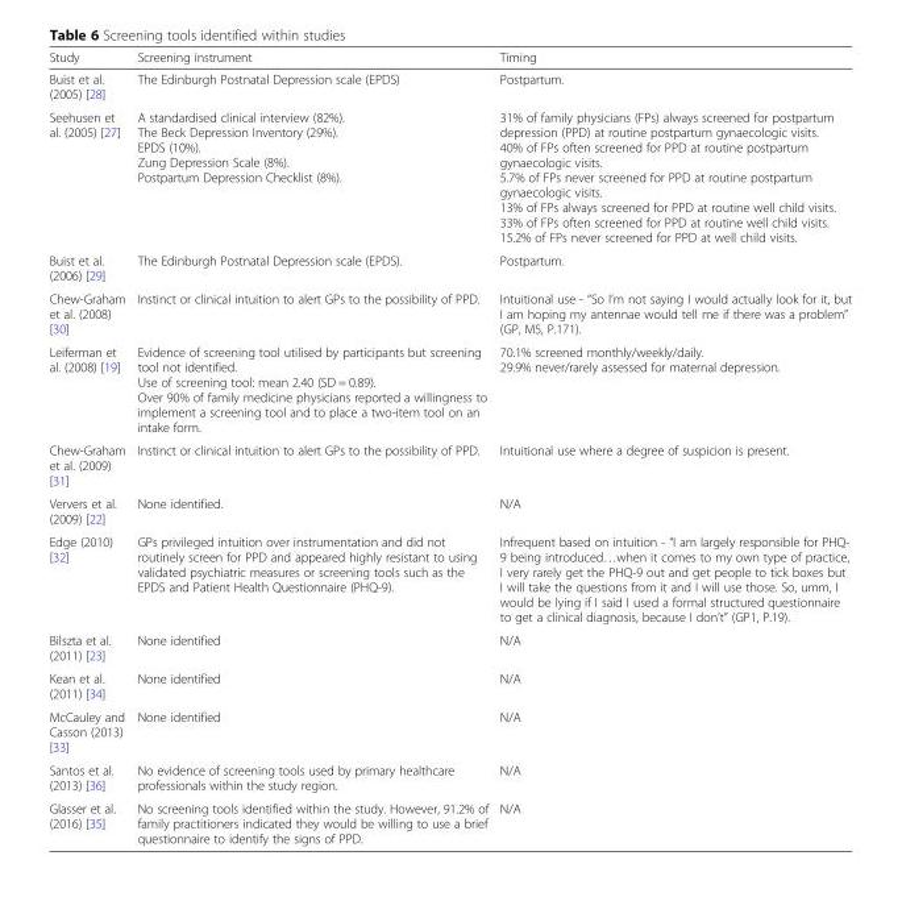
<table><thead><tr><td>Study</td><td>Screening instrument</td><td>Timing</td></tr></thead><tbody><tr><td>Buist et al. (2005) [28]</td><td>The Edinburgh Postnatal Depression scale (EPDS)</td><td>Postpartum.</td></tr><tr><td>Seehusen et al. (2005) [27]</td><td>A standardised clinical interview (82%). The Beck Depression Inventory (29%). EPDS (10%). Zung Depression Scale (8%). Postpartum Depression Checklist (8%).</td><td>31% of family physicians (FPs) always screened for postpartum depression (PPD) at routine postpartum gynaecologic visits. 40% of FPs often screened for PPD at routine postpartum gynaecologic visits. 5.7% of FPs never screened for PPD at routine postpartum gynaecologic visits. 13% of FPs always screened for PPD at routine well child visits. 33% of FPs often screened for PPD at routine well child visits. 15.2% of FPs never screened for PPD at well child visits.</td></tr><tr><td>Buist et al. (2006) [29]</td><td>The Edinburgh Postnatal Depression scale (EPDS).</td><td>Postpartum.</td></tr><tr><td>Chew-Graham et al. (2008) [30]</td><td>Instinct or clinical intuition to alert GPs to the possibility of PPD.</td><td>Intuitional use - “So I’m not saying I would actually look for it, but I am hoping my antennae would tell me if there was a problem” (GP, M5, P.171).</td></tr><tr><td>Leiferman et al. (2008) [19]</td><td>Evidence of screening tool utilised by participants but screening tool not identified. Use of screening tool: mean 2.40 (SD = 0.89). Over 90% of family medicine physicians reported a willingness to implement a screening tool and to place a two-item tool on an intake form.</td><td>70.1% screened monthly/weekly/daily. 29.9% never/rarely assessed for maternal depression.</td></tr><tr><td>Chew-Graham et al. (2009) [31]</td><td>Instinct or clinical intuition to alert GPs to the possibility of PPD.</td><td>Intuitional use where a degree of suspicion is present.</td></tr><tr><td>Ververs et al. (2009) [22]</td><td>None identified.</td><td>N/A</td></tr><tr><td>Edge (2010) [32]</td><td>GPs privileged intuition over instrumentation and did not routinely screen for PPD and appeared highly resistant to using validated psychiatric measures or screening tools such as the EPDS and Patient Health Questionnaire (PHQ-9).</td><td>Infrequent based on intuition - “I am largely responsible for PHQ- 9 being introduced…when it comes to my own type of practice, I very rarely get the PHQ-9 out and get people to tick boxes but I will take the questions from it and I will use those. So, umm, I would be lying if I said I used a formal structured questionnaire to get a clinical diagnosis, because I don’t” (GP1, P.19).</td></tr><tr><td>Bilszta et al. (2011) [23]</td><td>None identified</td><td>N/A</td></tr><tr><td>Kean et al. (2011) [34]</td><td>None identified</td><td>N/A</td></tr><tr><td>McCauley and Casson (2013) [33]</td><td>None identified</td><td>N/A</td></tr><tr><td>Santos et al. (2013) [36]</td><td>No evidence of screening tools used by primary healthcare professionals within the study region.</td><td>N/A</td></tr><tr><td>Glasser et al. (2016) [35]</td><td>No screening tools identified within the study. However, 91.2% of family practitioners indicated they would be willing to use a brief questionnaire to identify the signs of PPD.</td><td>N/A</td></tr></tbody></table>